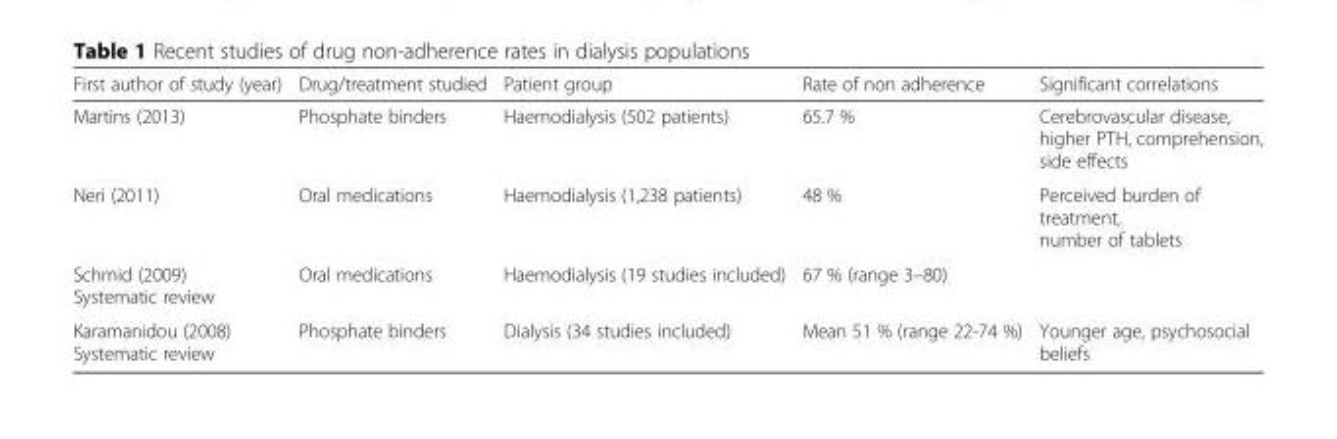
<table><thead><tr><td>First author of study (year)</td><td>Drug/treatment studied</td><td>Patient group</td><td>Rate of non adherence</td><td>Significant correlations</td></tr></thead><tbody><tr><td>Martins (2013)</td><td>Phosphate binders</td><td>Haemodialysis (502 patients)</td><td>65.7 %</td><td>Cerebrovascular disease, higher PTH, comprehension, side effects</td></tr><tr><td>Neri (2011)</td><td>Oral medications</td><td>Haemodialysis (1,238 patients)</td><td>48 %</td><td>Perceived burden of treatment, number of tablets</td></tr><tr><td>Schmid (2009) Systematic review</td><td>Oral medications</td><td>Haemodialysis (19 studies included)</td><td>67 % (range 3–80)</td><td></td></tr><tr><td>Karamanidou (2008) Systematic review</td><td>Phosphate binders</td><td>Dialysis (34 studies included)</td><td>Mean 51 % (range 22-74 %)</td><td>Younger age, psychosocial beliefs</td></tr></tbody></table>